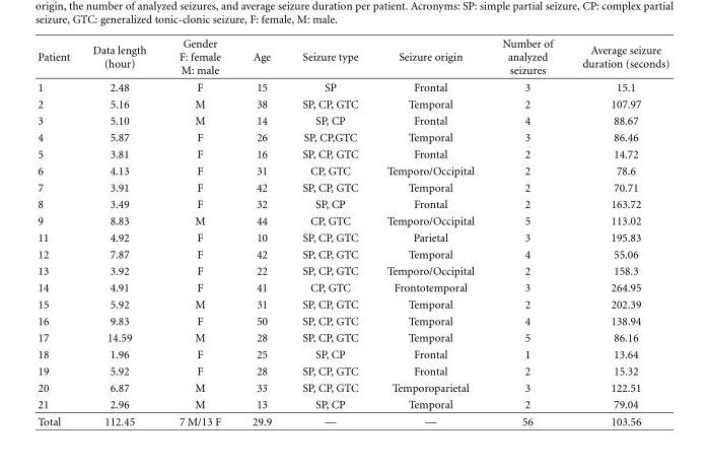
<table><thead><tr><td>Patient</td><td>Data length (hour)</td><td>Gender F: female M: male</td><td>Age</td><td>Seizure type</td><td>Seizure origin</td><td>Number of analyzed seizures</td><td>Average seizure duration (seconds)</td></tr></thead><tbody><tr><td>1</td><td>2.48</td><td>F</td><td>15</td><td>SP</td><td>Frontal</td><td>3</td><td>15.1</td></tr><tr><td>2</td><td>5.16</td><td>M</td><td>38</td><td>SP, CP, GTC</td><td>Temporal</td><td>2</td><td>107.97</td></tr><tr><td>3</td><td>5.10</td><td>M</td><td>14</td><td>SP, CP</td><td>Frontal</td><td>4</td><td>88.67</td></tr><tr><td>4</td><td>5.87</td><td>F</td><td>26</td><td>SP, CP,GTC</td><td>Temporal</td><td>3</td><td>86.46</td></tr><tr><td>5</td><td>3.81</td><td>F</td><td>16</td><td>SP, CP, GTC</td><td>Frontal</td><td>2</td><td>14.72</td></tr><tr><td>6</td><td>4.13</td><td>F</td><td>31</td><td>CP, GTC</td><td>Temporo/Occipital</td><td>2</td><td>78.6</td></tr><tr><td>7</td><td>3.91</td><td>F</td><td>42</td><td>SP, CP, GTC</td><td>Temporal</td><td>2</td><td>70.71</td></tr><tr><td>8</td><td>3.49</td><td>F</td><td>32</td><td>SP, CP</td><td>Frontal</td><td>2</td><td>163.72</td></tr><tr><td>9</td><td>8.83</td><td>M</td><td>44</td><td>CP, GTC</td><td>Temporo/Occipital</td><td>5</td><td>113.02</td></tr><tr><td>11</td><td>4.92</td><td>F</td><td>10</td><td>SP, CP, GTC</td><td>Parietal</td><td>3</td><td>195.83</td></tr><tr><td>12</td><td>7.87</td><td>F</td><td>42</td><td>SP, CP, GTC</td><td>Temporal</td><td>4</td><td>55.06</td></tr><tr><td>13</td><td>3.92</td><td>F</td><td>22</td><td>SP, CP, GTC</td><td>Temporo/Occipital</td><td>2</td><td>158.3</td></tr><tr><td>14</td><td>4.91</td><td>F</td><td>41</td><td>CP, GTC</td><td>Frontotemporal</td><td>3</td><td>264.95</td></tr><tr><td>15</td><td>5.92</td><td>M</td><td>31</td><td>SP, CP, GTC</td><td>Temporal</td><td>2</td><td>202.39</td></tr><tr><td>16</td><td>9.83</td><td>F</td><td>50</td><td>SP, CP, GTC</td><td>Temporal</td><td>4</td><td>138.94</td></tr><tr><td>17</td><td>14.59</td><td>M</td><td>28</td><td>SP, CP, GTC</td><td>Temporal</td><td>5</td><td>86.16</td></tr><tr><td>18</td><td>1.96</td><td>F</td><td>25</td><td>SP, CP</td><td>Frontal</td><td>1</td><td>13.64</td></tr><tr><td>19</td><td>5.92</td><td>F</td><td>28</td><td>SP, CP, GTC</td><td>Frontal</td><td>2</td><td>15.32</td></tr><tr><td>20</td><td>6.87</td><td>M</td><td>33</td><td>SP, CP, GTC</td><td>Temporoparietal</td><td>3</td><td>122.51</td></tr><tr><td>21</td><td>2.96</td><td>M</td><td>13</td><td>SP, CP</td><td>Temporal</td><td>2</td><td>79.04</td></tr><tr><td>Total</td><td>112.45</td><td>7 M/13 F</td><td>29.9</td><td>—</td><td>—</td><td>56</td><td>103.56</td></tr></tbody></table>